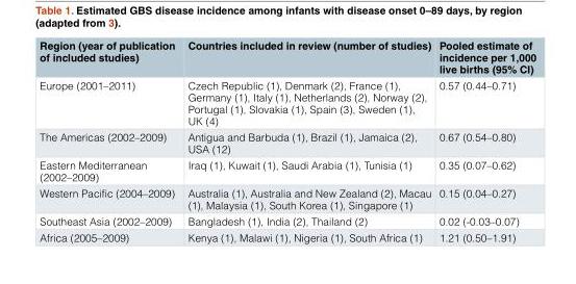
<table><thead><tr><td>Region (year of publication of included studies)</td><td>Countries included in review (number of studies)</td><td>Pooled estimate of incidence per 1,000 live births (95% CI)</td></tr></thead><tbody><tr><td>Europe (2001–2011)</td><td>Czech Republic (1), Denmark (2), France (1), Germany (1), Italy (1), Netherlands (2), Norway (2), Portugal (1), Slovakia (1), Spain (3), Sweden (1), UK (4)</td><td>0.57 (0.44–0.71)</td></tr><tr><td>The Americas (2002–2009)</td><td>Antigua and Barbuda (1), Brazil (1), Jamaica (2), USA (12)</td><td>0.67 (0.54–0.80)</td></tr><tr><td>Eastern Mediterranean (2002–2009)</td><td>Iraq (1), Kuwait (1), Saudi Arabia (1), Tunisia (1)</td><td>0.35 (0.07–0.62)</td></tr><tr><td>Western Pacific (2004–2009)</td><td>Australia (1), Australia and New Zealand (2), Macau (1), Malaysia (1), South Korea (1), Singapore (1)</td><td>0.15 (0.04–0.27)</td></tr><tr><td>Southeast Asia (2002–2009)</td><td>Bangladesh (1), India (2), Thailand (2)</td><td>0.02 (-0.03–0.07)</td></tr><tr><td>Africa (2005–2009)</td><td>Kenya (1), Malawi (1), Nigeria (1), South Africa (1)</td><td>1.21 (0.50–1.91)</td></tr></tbody></table>